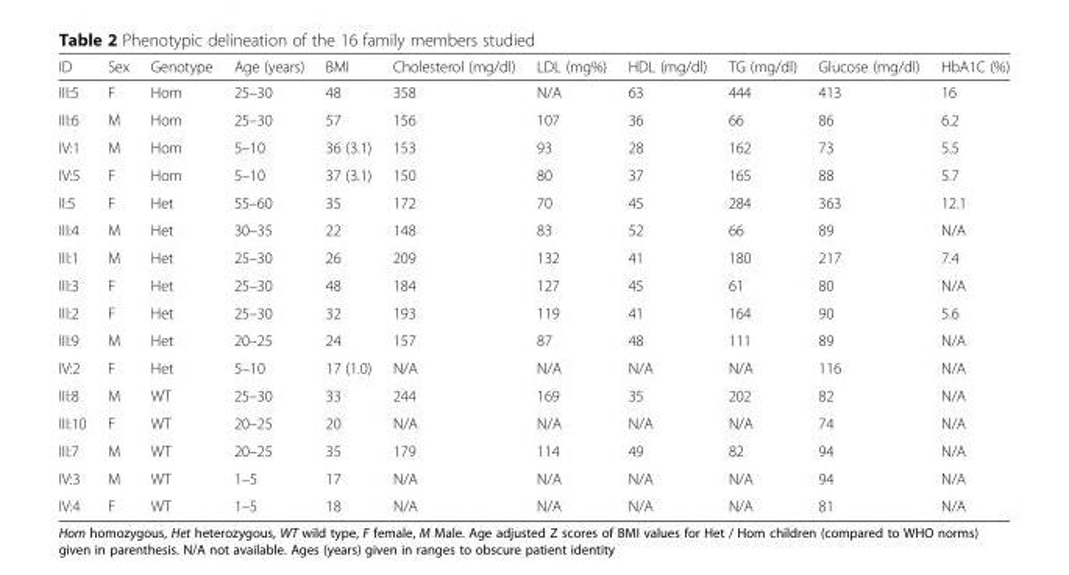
<table><thead><tr><td>ID</td><td>Sex</td><td>Genotype</td><td>Age (years)</td><td>BMI</td><td>Cholesterol (mg/dl)</td><td>LDL (mg%)</td><td>HDL (mg/dl)</td><td>TG (mg/dl)</td><td>Glucose (mg/dl)</td><td>HbA1C (%)</td></tr></thead><tbody><tr><td>III:5</td><td>F</td><td>Hom</td><td>25–30</td><td>48</td><td>358</td><td>N/A</td><td>63</td><td>444</td><td>413</td><td>16</td></tr><tr><td>III:6</td><td>M</td><td>Hom</td><td>25–30</td><td>57</td><td>156</td><td>107</td><td>36</td><td>66</td><td>86</td><td>6.2</td></tr><tr><td>IV:1</td><td>M</td><td>Hom</td><td>5–10</td><td>36 (3.1)</td><td>153</td><td>93</td><td>28</td><td>162</td><td>73</td><td>5.5</td></tr><tr><td>IV:5</td><td>F</td><td>Hom</td><td>5–10</td><td>37 (3.1)</td><td>150</td><td>80</td><td>37</td><td>165</td><td>88</td><td>5.7</td></tr><tr><td>II:5</td><td>F</td><td>Het</td><td>55–60</td><td>35</td><td>172</td><td>70</td><td>45</td><td>284</td><td>363</td><td>12.1</td></tr><tr><td>III:4</td><td>M</td><td>Het</td><td>30–35</td><td>22</td><td>148</td><td>83</td><td>52</td><td>66</td><td>89</td><td>N/A</td></tr><tr><td>III:1</td><td>M</td><td>Het</td><td>25–30</td><td>26</td><td>209</td><td>132</td><td>41</td><td>180</td><td>217</td><td>7.4</td></tr><tr><td>III:3</td><td>F</td><td>Het</td><td>25–30</td><td>48</td><td>184</td><td>127</td><td>45</td><td>61</td><td>80</td><td>N/A</td></tr><tr><td>III:2</td><td>F</td><td>Het</td><td>25–30</td><td>32</td><td>193</td><td>119</td><td>41</td><td>164</td><td>90</td><td>5.6</td></tr><tr><td>III:9</td><td>M</td><td>Het</td><td>20–25</td><td>24</td><td>157</td><td>87</td><td>48</td><td>111</td><td>89</td><td>N/A</td></tr><tr><td>IV:2</td><td>F</td><td>Het</td><td>5–10</td><td>17 (1.0)</td><td>N/A</td><td>N/A</td><td>N/A</td><td>N/A</td><td>116</td><td>N/A</td></tr><tr><td>III:8</td><td>M</td><td>WT</td><td>25–30</td><td>33</td><td>244</td><td>169</td><td>35</td><td>202</td><td>82</td><td>N/A</td></tr><tr><td>III:10</td><td>F</td><td>WT</td><td>20–25</td><td>20</td><td>N/A</td><td>N/A</td><td>N/A</td><td>N/A</td><td>74</td><td>N/A</td></tr><tr><td>III:7</td><td>M</td><td>WT</td><td>20–25</td><td>35</td><td>179</td><td>114</td><td>49</td><td>82</td><td>94</td><td>N/A</td></tr><tr><td>IV:3</td><td>M</td><td>WT</td><td>1–5</td><td>17</td><td>N/A</td><td>N/A</td><td>N/A</td><td>N/A</td><td>94</td><td>N/A</td></tr><tr><td>IV:4</td><td>F</td><td>WT</td><td>1–5</td><td>18</td><td>N/A</td><td>N/A</td><td>N/A</td><td>N/A</td><td>81</td><td>N/A</td></tr></tbody></table>